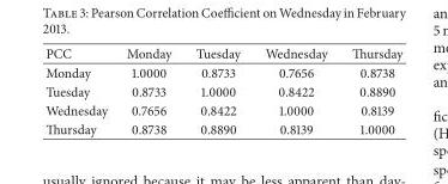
<table><thead><tr><td>PCC</td><td>Monday</td><td>Tuesday</td><td>Wednesday</td><td>Thursday</td></tr></thead><tbody><tr><td>Monday</td><td>1.0000</td><td>0.8733</td><td>0.7656</td><td>0.8738</td></tr><tr><td>Tuesday</td><td>0.8733</td><td>1.0000</td><td>0.8422</td><td>0.8890</td></tr><tr><td>Wednesday</td><td>0.7656</td><td>0.8422</td><td>1.0000</td><td>0.8139</td></tr><tr><td>Thursday</td><td>0.8738</td><td>0.8890</td><td>0.8139</td><td>1.0000</td></tr></tbody></table>